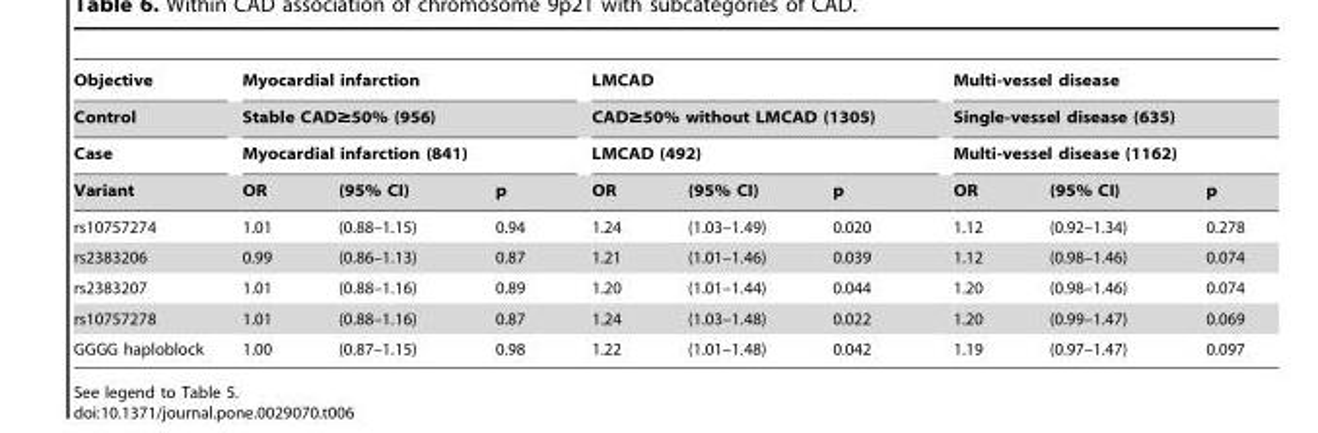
<table><thead><tr><td rowspan="4">Objective Control Case Variant</td><td rowspan="3" colspan="3">Myocardial infarction Stable CAD≥50% (956) Myocardial infarction (841)</td><td rowspan="3" colspan="3">LMCAD CAD≥50% without LMCAD (1305) LMCAD (492)</td><td rowspan="3" colspan="3">Multi-vessel disease Single-vessel disease (635) Multi-vessel disease (1162)</td></tr><tr></tr><tr></tr><tr><td>OR</td><td>(95% CI)</td><td>p</td><td>OR</td><td>(95% CI)</td><td>p</td><td>OR</td><td>(95% CI)</td><td>p</td></tr></thead><tbody><tr><td>rs10757274</td><td>1.01</td><td>(0.88–1.15)</td><td>0.94</td><td>1.24</td><td>(1.03–1.49)</td><td>0.020</td><td>1.12</td><td>(0.92–1.34)</td><td>0.278</td></tr><tr><td>rs2383206</td><td>0.99</td><td>(0.86–1.13)</td><td>0.87</td><td>1.21</td><td>(1.01–1.46)</td><td>0.039</td><td>1.12</td><td>(0.98–1.46)</td><td>0.074</td></tr><tr><td>rs2383207</td><td>1.01</td><td>(0.88–1.16)</td><td>0.89</td><td>1.20</td><td>(1.01–1.44)</td><td>0.044</td><td>1.20</td><td>(0.98–1.46)</td><td>0.074</td></tr><tr><td>rs10757278</td><td>1.01</td><td>(0.88–1.16)</td><td>0.87</td><td>1.24</td><td>(1.03–1.48)</td><td>0.022</td><td>1.20</td><td>(0.99–1.47)</td><td>0.069</td></tr><tr><td>GGGG haploblock</td><td>1.00</td><td>(0.87–1.15)</td><td>0.98</td><td>1.22</td><td>(1.01–1.48)</td><td>0.042</td><td>1.19</td><td>(0.97–1.47)</td><td>0.097</td></tr></tbody></table>